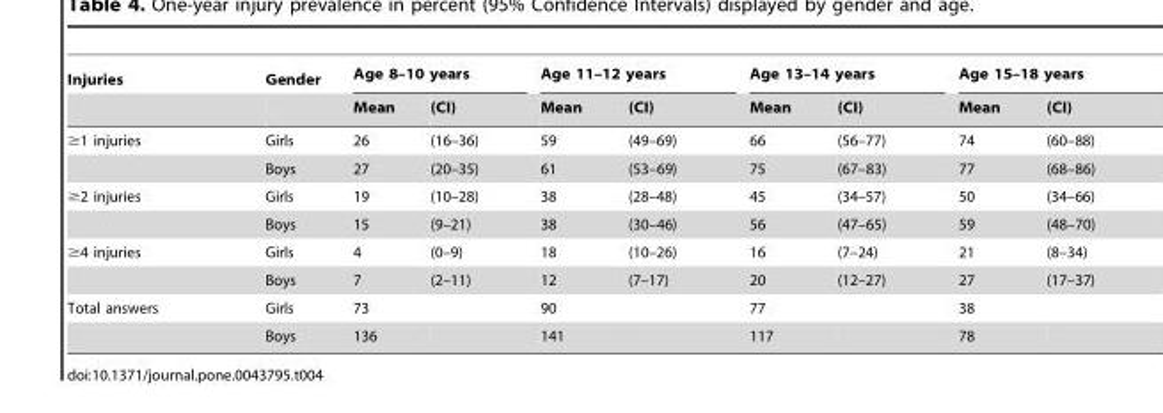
<table><thead><tr><td rowspan="2">Injuries</td><td rowspan="2">Gender</td><td colspan="2">Age 8–10 years</td><td colspan="2">Age 11–12 years</td><td colspan="2">Age 13–14 years</td><td colspan="2">Age 15–18 years</td></tr><tr><td>Mean</td><td>(CI)</td><td>Mean</td><td>(CI)</td><td>Mean</td><td>(CI)</td><td>Mean</td><td>(CI)</td></tr></thead><tbody><tr><td rowspan="2">≥1 injuries</td><td>Girls</td><td>26</td><td>(16–36)</td><td>59</td><td>(49–69)</td><td>66</td><td>(56–77)</td><td>74</td><td>(60–88)</td></tr><tr><td>Boys</td><td>27</td><td>(20–35)</td><td>61</td><td>(53–69)</td><td>75</td><td>(67–83)</td><td>77</td><td>(68–86)</td></tr><tr><td rowspan="2">≥2 injuries</td><td>Girls</td><td>19</td><td>(10–28)</td><td>38</td><td>(28–48)</td><td>45</td><td>(34–57)</td><td>50</td><td>(34–66)</td></tr><tr><td>Boys</td><td>15</td><td>(9–21)</td><td>38</td><td>(30–46)</td><td>56</td><td>(47–65)</td><td>59</td><td>(48–70)</td></tr><tr><td rowspan="2">≥4 injuries</td><td>Girls</td><td>4</td><td>(0–9)</td><td>18</td><td>(10–26)</td><td>16</td><td>(7–24)</td><td>21</td><td>(8–34)</td></tr><tr><td>Boys</td><td>7</td><td>(2–11)</td><td>12</td><td>(7–17)</td><td>20</td><td>(12–27)</td><td>27</td><td>(17–37)</td></tr><tr><td rowspan="2">Total answers</td><td>Girls</td><td>73</td><td></td><td>90</td><td></td><td>77</td><td></td><td>38</td><td></td></tr><tr><td>Boys</td><td>136</td><td></td><td>141</td><td></td><td>117</td><td></td><td>78</td><td></td></tr></tbody></table>